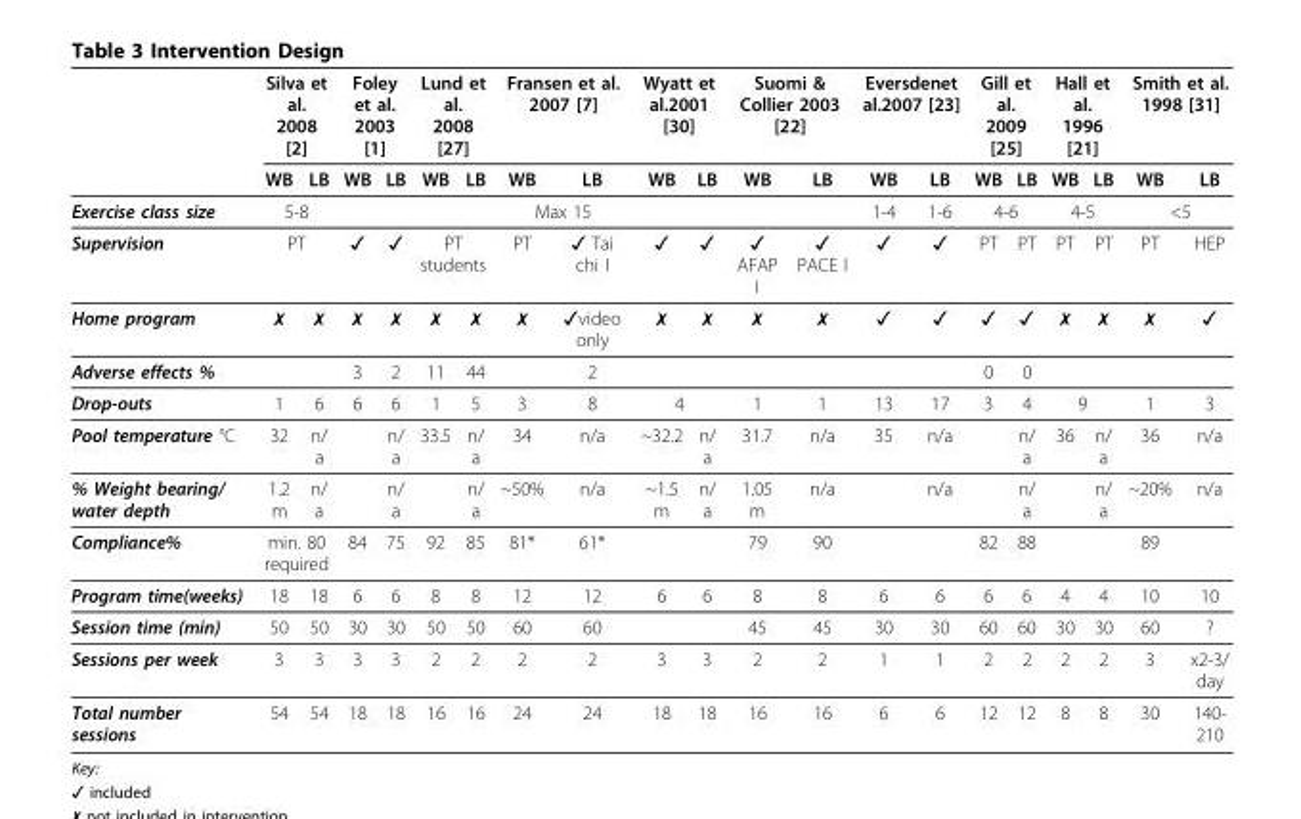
<table><thead><tr><td rowspan="2"></td><td colspan="2">Silva et al. 2008 [2]</td><td colspan="2">Foley et al. 2003 [1]</td><td colspan="2">Lund et al. 2008 [27]</td><td colspan="2">Fransen et al. 2007 [7]</td><td colspan="2">Wyatt et al.2001 [30]</td><td colspan="2">Suomi &amp; Collier 2003 [22]</td><td colspan="2">Eversdenet al.2007 [23]</td><td colspan="2">Gill et al. 2009 [25]</td><td colspan="2">Hall et al. 1996 [21]</td><td colspan="2">Smith et al. 1998 [31]</td></tr><tr><td>WB</td><td>LB</td><td>WB</td><td>LB</td><td>WB</td><td>LB</td><td>WB</td><td>LB</td><td>WB</td><td>LB</td><td>WB</td><td>LB</td><td>WB</td><td>LB</td><td>WB</td><td>LB</td><td>WB</td><td>LB</td><td>WB</td><td>LB</td></tr></thead><tbody><tr><td>Exercise class size</td><td colspan="2">5-8</td><td></td><td></td><td></td><td></td><td colspan="2">Max 15</td><td></td><td></td><td></td><td></td><td>1-4</td><td>1-6</td><td colspan="2">4-6</td><td colspan="2">4-5</td><td colspan="2">&lt;5</td></tr><tr><td>Supervision</td><td colspan="2">PT</td><td>✓</td><td>✓</td><td colspan="2">PT students</td><td>PT</td><td>✓ Tai chi I</td><td>✓</td><td>✓</td><td>✓ AFAP I</td><td>✓ PACE I</td><td>✓</td><td>✓</td><td>PT</td><td>PT</td><td>PT</td><td>PT</td><td>PT</td><td>HEP</td></tr><tr><td>Home program</td><td>✗</td><td>✗</td><td>✗</td><td>✗</td><td>✗</td><td>✗</td><td>✗</td><td>✓video only</td><td>✗</td><td>✗</td><td>✗</td><td>✗</td><td>✓</td><td>✓</td><td>✓</td><td>✓</td><td>✗</td><td>✗</td><td>✗</td><td>✓</td></tr><tr><td>Adverse effects %</td><td></td><td></td><td>3</td><td>2</td><td>11</td><td>44</td><td></td><td>2</td><td></td><td></td><td></td><td></td><td></td><td></td><td>0</td><td>0</td><td></td><td></td><td></td><td></td></tr><tr><td>Drop-outs</td><td>1</td><td>6</td><td>6</td><td>6</td><td>1</td><td>5</td><td>3</td><td>8</td><td colspan="2">4</td><td>1</td><td>1</td><td>13</td><td>17</td><td>3</td><td>4</td><td colspan="2">9</td><td>1</td><td>3</td></tr><tr><td>Pool temperature °C</td><td>32</td><td>n/ a</td><td></td><td>n/ a</td><td>33.5</td><td>n/ a</td><td>34</td><td>n/a</td><td>~32.2</td><td>n/ a</td><td>31.7</td><td>n/a</td><td>35</td><td>n/a</td><td></td><td>n/ a</td><td>36</td><td>n/ a</td><td>36</td><td>n/a</td></tr><tr><td>% Weight bearing/ water depth</td><td>1.2 m</td><td>n/ a</td><td></td><td>n/ a</td><td></td><td>n/ a</td><td>~50%</td><td>n/a</td><td>~1.5 m</td><td>n/ a</td><td>1.05 m</td><td>n/a</td><td></td><td>n/a</td><td></td><td>n/ a</td><td></td><td>n/ a</td><td>~20%</td><td>n/a</td></tr><tr><td>Compliance%</td><td colspan="2">min. 80 required</td><td>84</td><td>75</td><td>92</td><td>85</td><td>81*</td><td>61*</td><td></td><td></td><td>79</td><td>90</td><td></td><td></td><td>82</td><td>88</td><td></td><td></td><td>89</td><td></td></tr><tr><td>Program time(weeks)</td><td>18</td><td>18</td><td>6</td><td>6</td><td>8</td><td>8</td><td>12</td><td>12</td><td>6</td><td>6</td><td>8</td><td>8</td><td>6</td><td>6</td><td>6</td><td>6</td><td>4</td><td>4</td><td>10</td><td>10</td></tr><tr><td>Session time (min)</td><td>50</td><td>50</td><td>30</td><td>30</td><td>50</td><td>50</td><td>60</td><td>60</td><td></td><td></td><td>45</td><td>45</td><td>30</td><td>30</td><td>60</td><td>60</td><td>30</td><td>30</td><td>60</td><td>?</td></tr><tr><td>Sessions per week</td><td>3</td><td>3</td><td>3</td><td>3</td><td>2</td><td>2</td><td>2</td><td>2</td><td>3</td><td>3</td><td>2</td><td>2</td><td>1</td><td>1</td><td>2</td><td>2</td><td>2</td><td>2</td><td>3</td><td>x2-3/ day</td></tr><tr><td>Total number sessions</td><td>54</td><td>54</td><td>18</td><td>18</td><td>16</td><td>16</td><td>24</td><td>24</td><td>18</td><td>18</td><td>16</td><td>16</td><td>6</td><td>6</td><td>12</td><td>12</td><td>8</td><td>8</td><td>30</td><td>140- 210</td></tr></tbody></table>